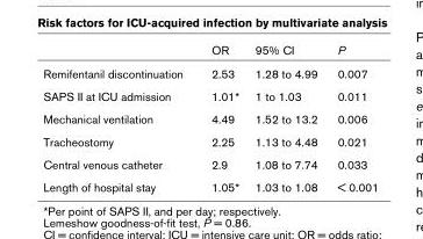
<table><thead><tr><td></td><td>OR</td><td>95% CI</td><td>P</td></tr></thead><tbody><tr><td>Remifentanil discontinuation</td><td>2.53</td><td>1.28 to 4.99</td><td>0.007</td></tr><tr><td>SAPS II at ICU admission</td><td>1.01*</td><td>1 to 1.03</td><td>0.011</td></tr><tr><td>Mechanical ventilation</td><td>4.49</td><td>1.52 to 13.2</td><td>0.006</td></tr><tr><td>Tracheostomy</td><td>2.25</td><td>1.13 to 4.48</td><td>0.021</td></tr><tr><td>Central venous catheter</td><td>2.9</td><td>1.08 to 7.74</td><td>0.033</td></tr><tr><td>Length of hospital stay</td><td>1.05*</td><td>1.03 to 1.08</td><td>&lt; 0.001</td></tr></tbody></table>